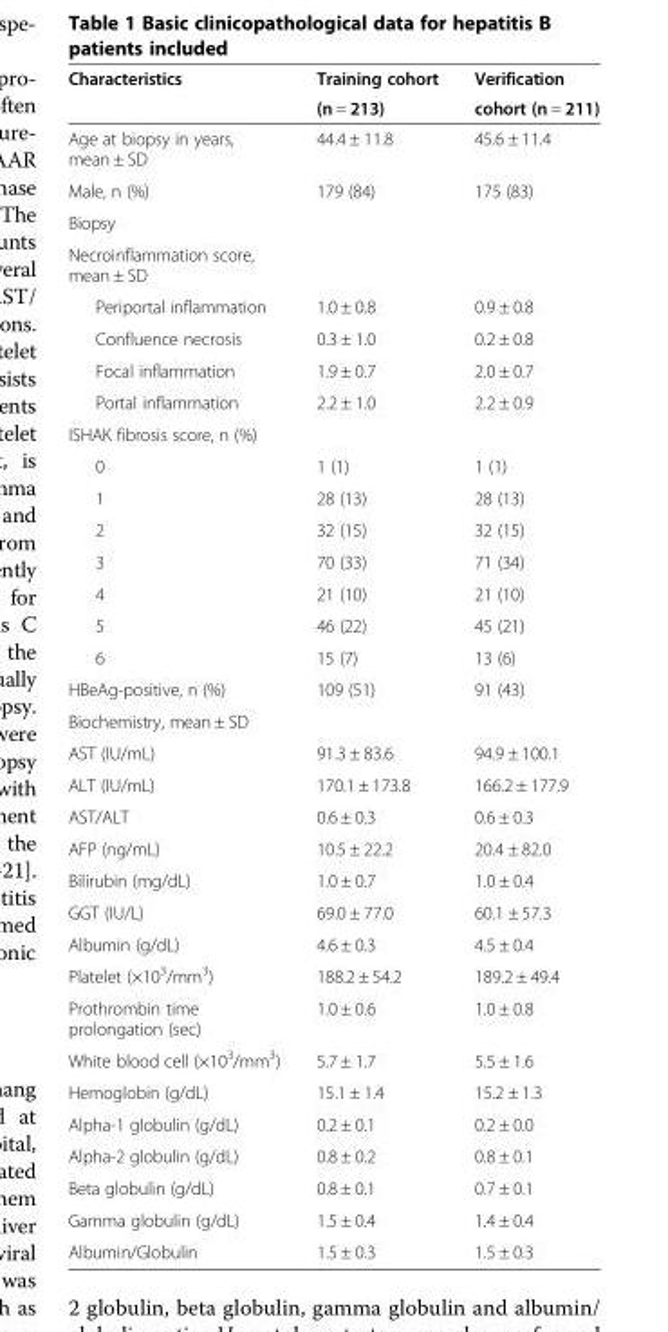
<table><thead><tr><td rowspan="2">Characteristics</td><td rowspan="2">Training cohort (n = 213)</td><td rowspan="2">Verification cohort (n = 211)</td></tr><tr></tr></thead><tbody><tr><td>Age at biopsy in years, mean ± SD</td><td>44.4 ± 11.8</td><td>45.6 ± 11.4</td></tr><tr><td>Male, n (%)</td><td>179 (84)</td><td>175 (83)</td></tr><tr><td>Biopsy</td><td rowspan="2"></td><td rowspan="2"></td></tr><tr><td>Necroinflammation score, mean ± SD</td></tr><tr><td>Periportal inflammation</td><td>1.0 ± 0.8</td><td>0.9 ± 0.8</td></tr><tr><td>Confluence necrosis</td><td>0.3 ± 1.0</td><td>0.2 ± 0.8</td></tr><tr><td>Focal inflammation</td><td>1.9 ± 0.7</td><td>2.0 ± 0.7</td></tr><tr><td>Portal inflammation</td><td>2.2 ± 1.0</td><td>2.2 ± 0.9</td></tr><tr><td colspan="3">ISHAK fibrosis score, n (%)</td></tr><tr><td>0</td><td>1 (1)</td><td>1 (1)</td></tr><tr><td>1</td><td>28 (13)</td><td>28 (13)</td></tr><tr><td>2</td><td>32 (15)</td><td>32 (15)</td></tr><tr><td>3</td><td>70 (33)</td><td>71 (34)</td></tr><tr><td>4</td><td>21 (10)</td><td>21 (10)</td></tr><tr><td>5</td><td>46 (22)</td><td>45 (21)</td></tr><tr><td>6</td><td>15 (7)</td><td>13 (6)</td></tr><tr><td>HBeAg-positive, n (%)</td><td>109 (51)</td><td>91 (43)</td></tr><tr><td colspan="3">Biochemistry, mean ± SD</td></tr><tr><td>AST (IU/mL)</td><td>91.3 ± 83.6</td><td>94.9 ± 100.1</td></tr><tr><td>ALT (IU/mL)</td><td>170.1 ± 173.8</td><td>166.2 ± 177.9</td></tr><tr><td>AST/ALT</td><td>0.6 ± 0.3</td><td>0.6 ± 0.3</td></tr><tr><td>AFP (ng/mL)</td><td>10.5 ± 22.2</td><td>20.4 ± 82.0</td></tr><tr><td>Bilirubin (mg/dL)</td><td>1.0 ± 0.7</td><td>1.0 ± 0.4</td></tr><tr><td>GGT (IU/L)</td><td>69.0 ± 77.0</td><td>60.1 ± 57.3</td></tr><tr><td>Albumin (g/dL)</td><td>4.6 ± 0.3</td><td>4.5 ± 0.4</td></tr><tr><td>Platelet (×10<sup>3</sup>/mm<sup>3</sup>)</td><td>188.2 ± 54.2</td><td>189.2 ± 49.4</td></tr><tr><td>Prothrombin time prolongation (sec)</td><td>1.0 ± 0.6</td><td>1.0 ± 0.8</td></tr><tr><td>White blood cell (×10<sup>3</sup>/mm<sup>3</sup>)</td><td>5.7 ± 1.7</td><td>5.5 ± 1.6</td></tr><tr><td>Hemoglobin (g/dL)</td><td>15.1 ± 1.4</td><td>15.2 ± 1.3</td></tr><tr><td>Alpha-1 globulin (g/dL)</td><td>0.2 ± 0.1</td><td>0.2 ± 0.0</td></tr><tr><td>Alpha-2 globulin (g/dL)</td><td>0.8 ± 0.2</td><td>0.8 ± 0.1</td></tr><tr><td>Beta globulin (g/dL)</td><td>0.8 ± 0.1</td><td>0.7 ± 0.1</td></tr><tr><td>Gamma globulin (g/dL)</td><td>1.5 ± 0.4</td><td>1.4 ± 0.4</td></tr><tr><td>Albumin/Globulin</td><td>1.5 ± 0.3</td><td>1.5 ± 0.3</td></tr></tbody></table>